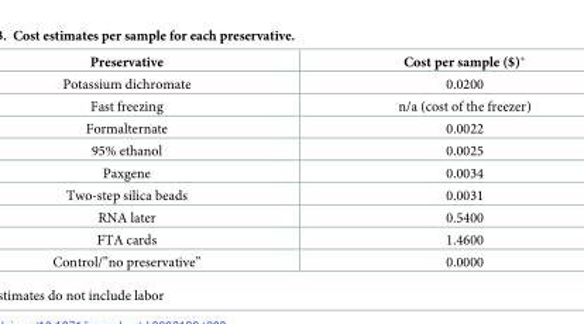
<table><thead><tr><td>Preservative</td><td>Cost per sample ($)*</td></tr></thead><tbody><tr><td>Potassium dichromate</td><td>0.0200</td></tr><tr><td>Fast freezing</td><td>n/a (cost of the freezer)</td></tr><tr><td>Formalternate</td><td>0.0022</td></tr><tr><td>95% ethanol</td><td>0.0025</td></tr><tr><td>Paxgene</td><td>0.0034</td></tr><tr><td>Two-step silica beads</td><td>0.0031</td></tr><tr><td>RNA later</td><td>0.5400</td></tr><tr><td>FTA cards</td><td>1.4600</td></tr><tr><td>Control/”no preservative”</td><td>0.0000</td></tr></tbody></table>